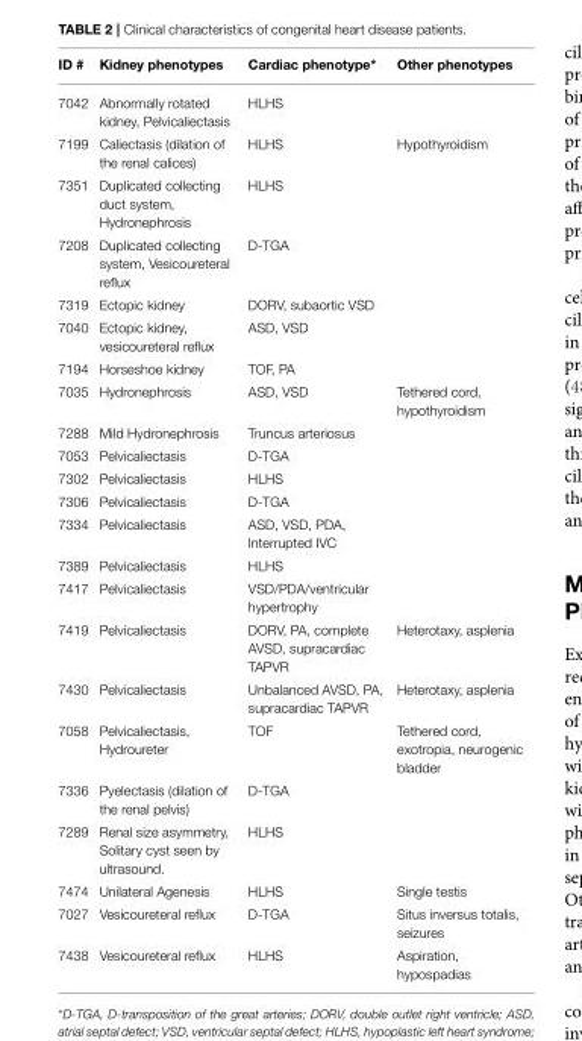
<table><thead><tr><td>ID #</td><td>Kidney phenotypes</td><td>Cardiac phenotype*</td><td>Other phenotypes</td></tr></thead><tbody><tr><td>7042</td><td>Abnormally rotated kidney, Pelvicaliectasis</td><td>HLHS</td><td></td></tr><tr><td>7199</td><td>Caliectasis (dilation of the renal calices)</td><td>HLHS</td><td>Hypothyroidism</td></tr><tr><td>7351</td><td>Duplicated collecting duct system, Hydronephrosis</td><td>HLHS</td><td></td></tr><tr><td>7208</td><td>Duplicated collecting system, Vesicoureteral reflux</td><td>D-TGA</td><td></td></tr><tr><td>7319</td><td>Ectopic kidney</td><td>DORV, subaortic VSD</td><td></td></tr><tr><td>7040</td><td>Ectopic kidney, vesicoureteral reflux</td><td>ASD, VSD</td><td></td></tr><tr><td>7194</td><td>Horseshoe kidney</td><td>TOF, PA</td><td></td></tr><tr><td>7035</td><td>Hydronephrosis</td><td>ASD, VSD</td><td>Tethered cord, hypothyroidism</td></tr><tr><td>7288</td><td>Mild Hydronephrosis</td><td>Truncus arteriosus</td><td></td></tr><tr><td>7053</td><td>Pelvicaliectasis</td><td>D-TGA</td><td></td></tr><tr><td>7302</td><td>Pelvicaliectasis</td><td>HLHS</td><td></td></tr><tr><td>7306</td><td>Pelvicaliectasis</td><td>D-TGA</td><td></td></tr><tr><td>7334</td><td>Pelvicaliectasis</td><td>ASD, VSD, PDA, Interrupted IVC</td><td></td></tr><tr><td>7389</td><td>Pelvicaliectasis</td><td>HLHS</td><td></td></tr><tr><td>7417</td><td>Pelvicaliectasis</td><td>VSD/PDA/ventricular hypertrophy</td><td></td></tr><tr><td>7419</td><td>Pelvicaliectasis</td><td>DORV, PA, complete AVSD, supracardiac TAPVR</td><td>Heterotaxy, asplenia</td></tr><tr><td>7430</td><td>Pelvicaliectasis</td><td>Unbalanced AVSD, PA, supracardiac TAPVR</td><td>Heterotaxy, asplenia</td></tr><tr><td>7058</td><td>Pelvicaliectasis, Hydroureter</td><td>TOF</td><td>Tethered cord, exotropia, neurogenic bladder</td></tr><tr><td>7336</td><td>Pyelectasis (dilation of the renal pelvis)</td><td>D-TGA</td><td></td></tr><tr><td>7289</td><td>Renal size asymmetry, Solitary cyst seen by ultrasound.</td><td>HLHS</td><td></td></tr><tr><td>7474</td><td>Unilateral Agenesis</td><td>HLHS</td><td>Single testis</td></tr><tr><td>7027</td><td>Vesicoureteral reflux</td><td>D-TGA</td><td>Situs inversus totalis, seizures</td></tr><tr><td>7438</td><td>Vesicoureteral reflux</td><td>HLHS</td><td>Aspiration, hypospadias</td></tr></tbody></table>